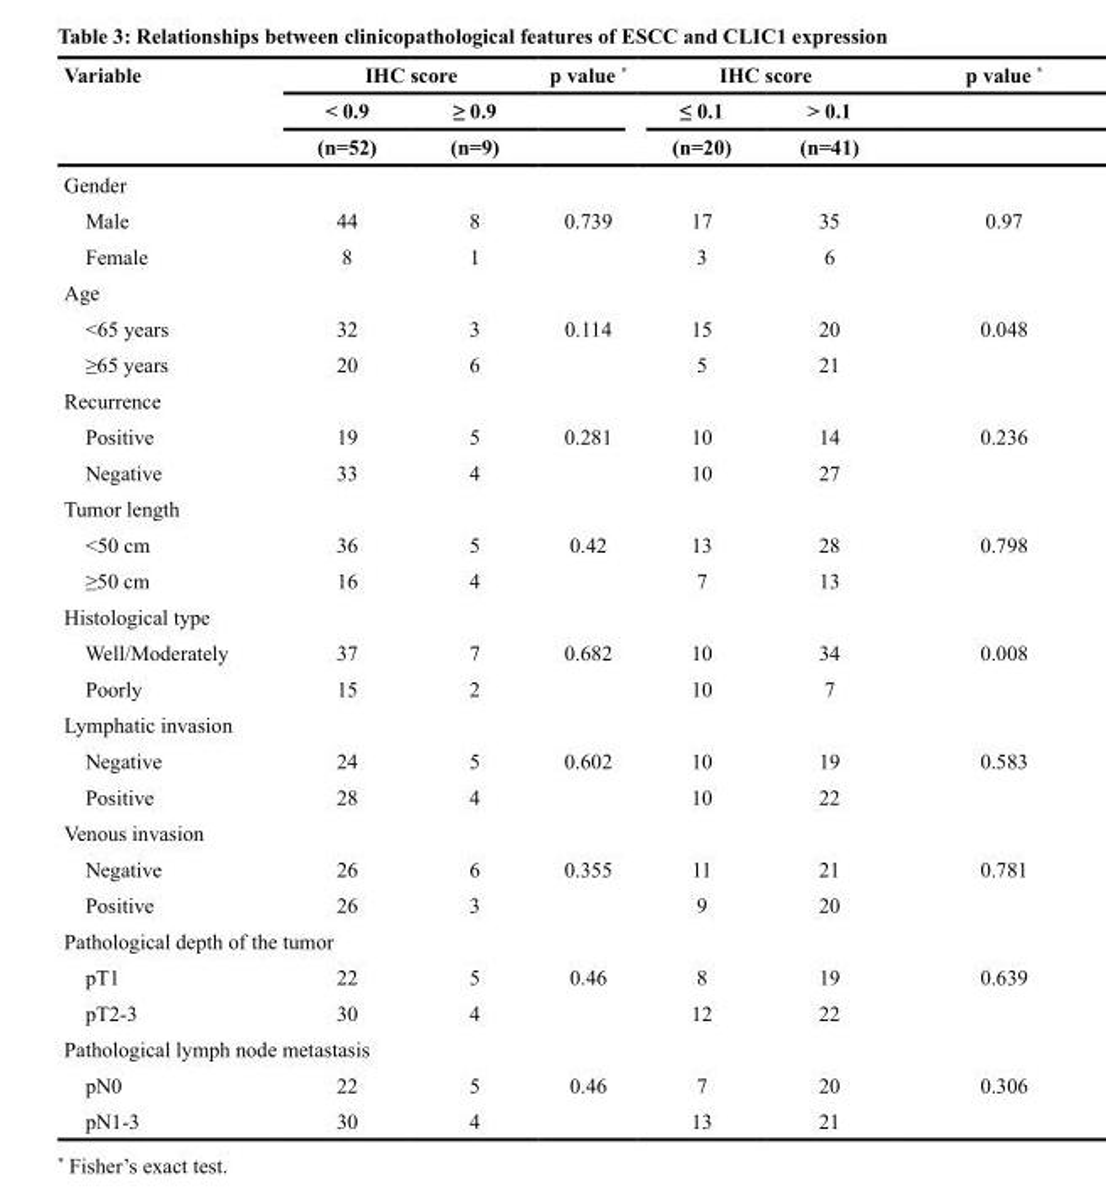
<table><thead><tr><td rowspan="3">Variable</td><td colspan="2">IHC score</td><td rowspan="3">p value *</td><td colspan="2">IHC score</td><td rowspan="3">p value *</td></tr><tr><td rowspan="2">&lt; 0.9 (n=52)</td><td rowspan="2">≥ 0.9 (n=9)</td><td rowspan="2">≤ 0.1 (n=20)</td><td rowspan="2">&gt; 0.1 (n=41)</td></tr><tr></tr></thead><tbody><tr><td colspan="7">Gender</td></tr><tr><td>Male</td><td>44</td><td>8</td><td>0.739</td><td>17</td><td>35</td><td>0.97</td></tr><tr><td>Female</td><td>8</td><td>1</td><td></td><td>3</td><td>6</td><td></td></tr><tr><td colspan="7">Age</td></tr><tr><td>&lt;65 years</td><td>32</td><td>3</td><td>0.114</td><td>15</td><td>20</td><td>0.048</td></tr><tr><td>≥65 years</td><td>20</td><td>6</td><td></td><td>5</td><td>21</td><td></td></tr><tr><td colspan="7">Recurrence</td></tr><tr><td>Positive</td><td>19</td><td>5</td><td>0.281</td><td>10</td><td>14</td><td>0.236</td></tr><tr><td>Negative</td><td>33</td><td>4</td><td></td><td>10</td><td>27</td><td></td></tr><tr><td colspan="7">Tumor length</td></tr><tr><td>&lt;50 cm</td><td>36</td><td>5</td><td>0.42</td><td>13</td><td>28</td><td>0.798</td></tr><tr><td>≥50 cm</td><td>16</td><td>4</td><td></td><td>7</td><td>13</td><td></td></tr><tr><td colspan="7">Histological type</td></tr><tr><td>Well/Moderately</td><td>37</td><td>7</td><td>0.682</td><td>10</td><td>34</td><td>0.008</td></tr><tr><td>Poorly</td><td>15</td><td>2</td><td></td><td>10</td><td>7</td><td></td></tr><tr><td colspan="7">Lymphatic invasion</td></tr><tr><td>Negative</td><td>24</td><td>5</td><td>0.602</td><td>10</td><td>19</td><td>0.583</td></tr><tr><td>Positive</td><td>28</td><td>4</td><td></td><td>10</td><td>22</td><td></td></tr><tr><td colspan="7">Venous invasion</td></tr><tr><td>Negative</td><td>26</td><td>6</td><td>0.355</td><td>11</td><td>21</td><td>0.781</td></tr><tr><td>Positive</td><td>26</td><td>3</td><td></td><td>9</td><td>20</td><td></td></tr><tr><td colspan="7">Pathological depth of the tumor</td></tr><tr><td>pT1</td><td>22</td><td>5</td><td>0.46</td><td>8</td><td>19</td><td>0.639</td></tr><tr><td>pT2-3</td><td>30</td><td>4</td><td></td><td>12</td><td>22</td><td></td></tr><tr><td colspan="7">Pathological lymph node metastasis</td></tr><tr><td>pN0</td><td>22</td><td>5</td><td>0.46</td><td>7</td><td>20</td><td>0.306</td></tr><tr><td>pN1-3</td><td>30</td><td>4</td><td></td><td>13</td><td>21</td><td></td></tr></tbody></table>